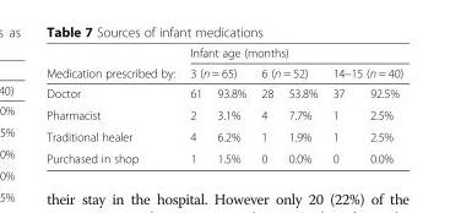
<table><thead><tr><td rowspan="3">Medication prescribed by: Doctor</td><td colspan="6">Infant age (months)</td></tr><tr><td colspan="2">3 (n = 65)</td><td colspan="2">6 (n = 52)</td><td colspan="2">14–15 (n = 40)</td></tr><tr><td>61</td><td>93.8%</td><td>28</td><td>53.8%</td><td>37</td><td>92.5%</td></tr></thead><tbody><tr><td>Pharmacist</td><td>2</td><td>3.1%</td><td>4</td><td>7.7%</td><td>1</td><td>2.5%</td></tr><tr><td>Traditional healer</td><td>4</td><td>6.2%</td><td>1</td><td>1.9%</td><td>1</td><td>2.5%</td></tr><tr><td>Purchased in shop</td><td>1</td><td>1.5%</td><td>0</td><td>0.0%</td><td>0</td><td>0.0%</td></tr></tbody></table>